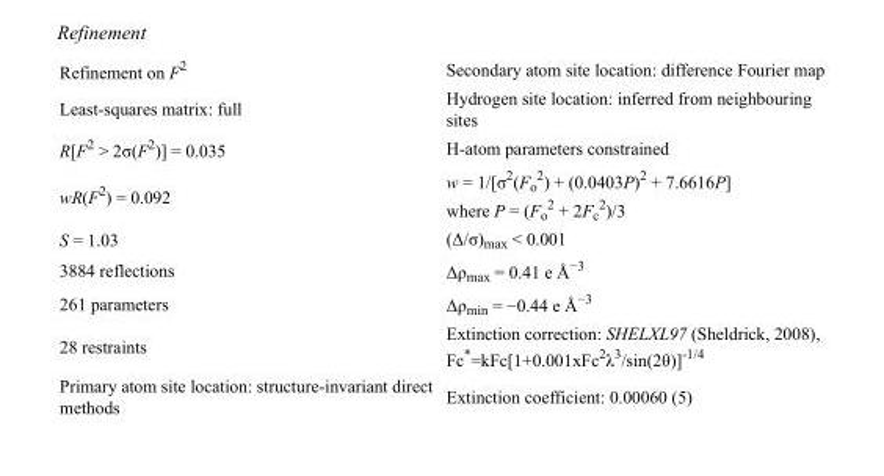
<table><tbody><tr><td>Refinement on F<sup>2</sup></td><td>Secondary atom site location: difference Fourier map</td></tr><tr><td>Least-squares matrix: full</td><td>Hydrogen site location: inferred from neighbouring sites</td></tr><tr><td>R[F<sup>2</sup> &gt; 2σ(F<sup>2</sup>)] = 0.035</td><td>H-atom parameters constrained</td></tr><tr><td>wR(F<sup>2</sup>) = 0.092</td><td>w = 1/[σ<sup>2</sup>(F<sub>o</sub> <sup>2</sup>) + (0.0403P)<sup>2</sup> + 7.6616P] where P = (F<sub>o</sub> <sup>2</sup> + 2F<sub>c</sub> <sup>2</sup>)/3</td></tr><tr><td>S = 1.03</td><td>(Δ/σ)<sub>max</sub> &lt; 0.001</td></tr><tr><td>3884 reflections</td><td>Δρ<sub>max</sub> = 0.41 e Å<sup>−3</sup></td></tr><tr><td>261 parameters</td><td>Δρ<sub>min</sub> = −0.44 e Å<sup>−3</sup></td></tr><tr><td>28 restraints</td><td>Extinction correction: SHELXL97 (Sheldrick, 2008), Fc*=kFc[1+0.001xFc<sup>2</sup>λ<sup>3</sup>/sin(2θ)]<sup>-1/4</sup></td></tr><tr><td>Primary atom site location: structure-invariant direct methods</td><td>Extinction coefficient: 0.00060 (5)</td></tr></tbody></table>